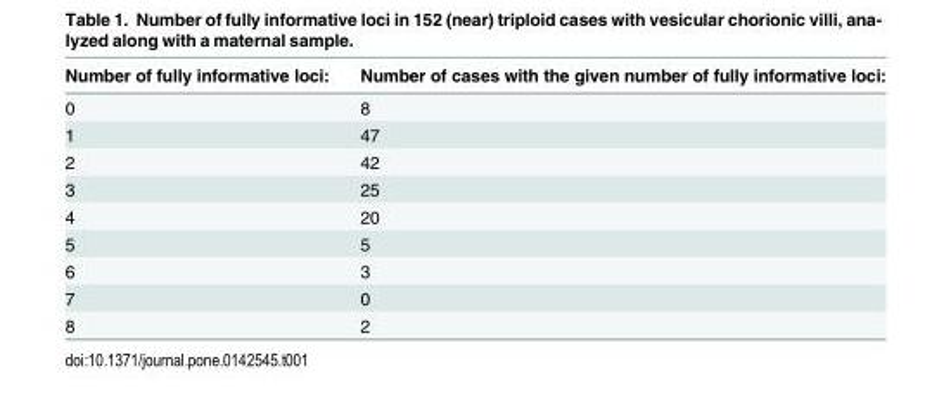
<table><thead><tr><td>Number of fully informative loci:</td><td>Number of cases with the given number of fully informative loci:</td></tr></thead><tbody><tr><td>0</td><td>8</td></tr><tr><td>1</td><td>47</td></tr><tr><td>2</td><td>42</td></tr><tr><td>3</td><td>25</td></tr><tr><td>4</td><td>20</td></tr><tr><td>5</td><td>5</td></tr><tr><td>6</td><td>3</td></tr><tr><td>7</td><td>0</td></tr><tr><td>8</td><td>2</td></tr></tbody></table>